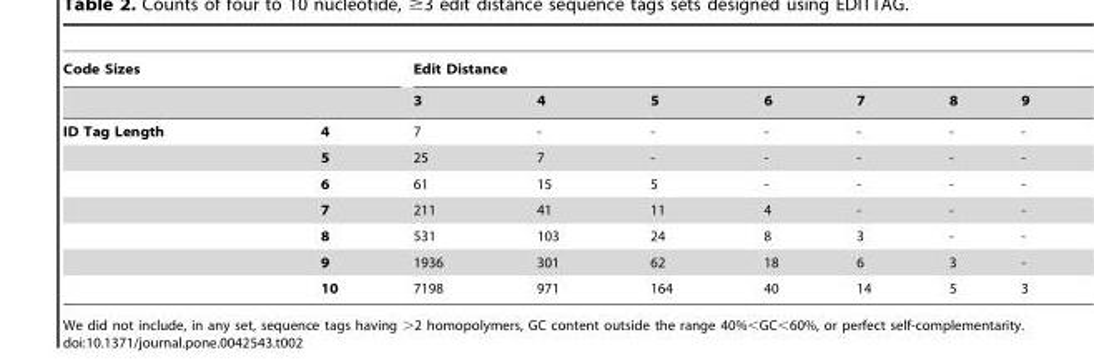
<table><thead><tr><td colspan="2">Code Sizes</td><td colspan="7">Edit Distance</td></tr><tr><td></td><td></td><td>3</td><td>4</td><td>5</td><td>6</td><td>7</td><td>8</td><td>9</td></tr></thead><tbody><tr><td rowspan="7">ID Tag Length</td><td>4</td><td>7</td><td>-</td><td>-</td><td>-</td><td>-</td><td>-</td><td>-</td></tr><tr><td>5</td><td>25</td><td>7</td><td>-</td><td>-</td><td>-</td><td>-</td><td>-</td></tr><tr><td>6</td><td>61</td><td>15</td><td>5</td><td>-</td><td>-</td><td>-</td><td>-</td></tr><tr><td>7</td><td>211</td><td>41</td><td>11</td><td>4</td><td>-</td><td>-</td><td>-</td></tr><tr><td>8</td><td>531</td><td>103</td><td>24</td><td>8</td><td>3</td><td>-</td><td>-</td></tr><tr><td>9</td><td>1936</td><td>301</td><td>62</td><td>18</td><td>6</td><td>3</td><td>-</td></tr><tr><td>10</td><td>7198</td><td>971</td><td>164</td><td>40</td><td>14</td><td>5</td><td>3</td></tr></tbody></table>